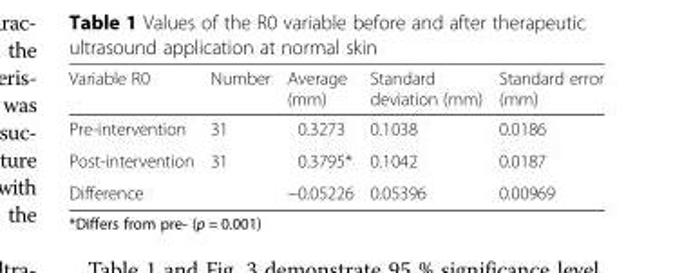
<table><thead><tr><td>Variable R0</td><td>Number</td><td>Average (mm)</td><td>Standard deviation (mm)</td><td>Standard error (mm)</td></tr></thead><tbody><tr><td>Pre-intervention</td><td>31</td><td>0.3273</td><td>0.1038</td><td>0.0186</td></tr><tr><td>Post-intervention</td><td>31</td><td>0.3795*</td><td>0.1042</td><td>0.0187</td></tr><tr><td>Difference</td><td></td><td>−0.05226</td><td>0.05396</td><td>0.00969</td></tr></tbody></table>